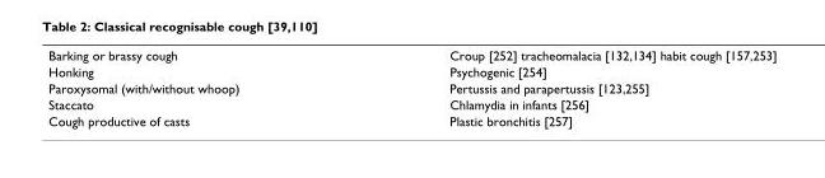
<table><tbody><tr><td>Barking or brassy cough</td><td>Croup [252] tracheomalacia [132,134] habit cough [157,253]</td></tr><tr><td>Honking</td><td>Psychogenic [254]</td></tr><tr><td>Paroxysomal (with/without whoop)</td><td>Pertussis and parapertussis [123,255]</td></tr><tr><td>Staccato</td><td>Chlamydia in infants [256]</td></tr><tr><td>Cough productive of casts</td><td>Plastic bronchitis [257]</td></tr></tbody></table>